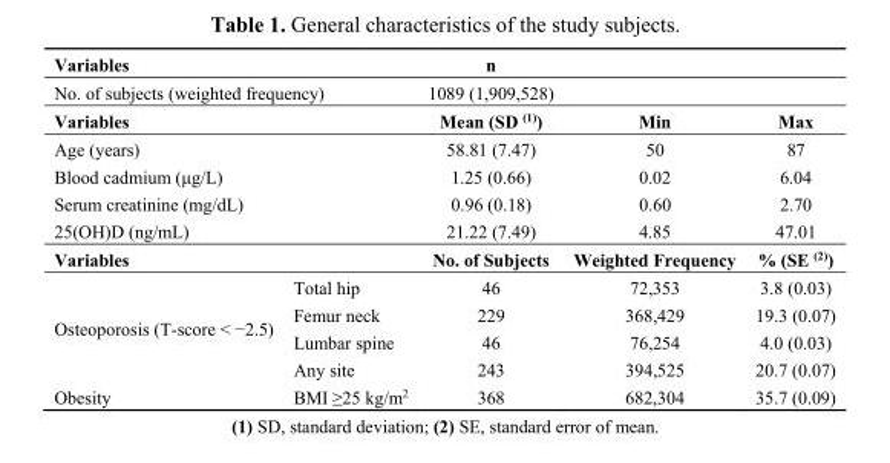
<table><tbody><tr><td colspan="2">Variables</td><td>n</td><td colspan="2"></td></tr><tr><td colspan="2">No. of subjects (weighted frequency)</td><td>1089 (1,909,528)</td><td colspan="2"></td></tr><tr><td colspan="2">Variables</td><td>Mean (SD <sup>(1)</sup>)</td><td>Min</td><td>Max</td></tr><tr><td colspan="2">Age (years)</td><td>58.81 (7.47)</td><td>50</td><td>87</td></tr><tr><td colspan="2">Blood cadmium (μg/L)</td><td>1.25 (0.66)</td><td>0.02</td><td>6.04</td></tr><tr><td colspan="2">Serum creatinine (mg/dL)</td><td>0.96 (0.18)</td><td>0.60</td><td>2.70</td></tr><tr><td colspan="2">25(OH)D (ng/mL)</td><td>21.22 (7.49)</td><td>4.85</td><td>47.01</td></tr><tr><td colspan="2">Variables</td><td>No. of Subjects</td><td>Weighted Frequency</td><td>% (SE <sup>(2)</sup>)</td></tr><tr><td rowspan="4">Osteoporosis (T-score &lt; −2.5)</td><td>Total hip</td><td>46</td><td>72,353</td><td>3.8 (0.03)</td></tr><tr><td>Femur neck</td><td>229</td><td>368,429</td><td>19.3 (0.07)</td></tr><tr><td>Lumbar spine</td><td>46</td><td>76,254</td><td>4.0 (0.03)</td></tr><tr><td>Any site</td><td>243</td><td>394,525</td><td>20.7 (0.07)</td></tr><tr><td>Obesity</td><td>BMI ≥25 kg/m<sup>2</sup></td><td>368</td><td>682,304</td><td>35.7 (0.09)</td></tr></tbody></table>